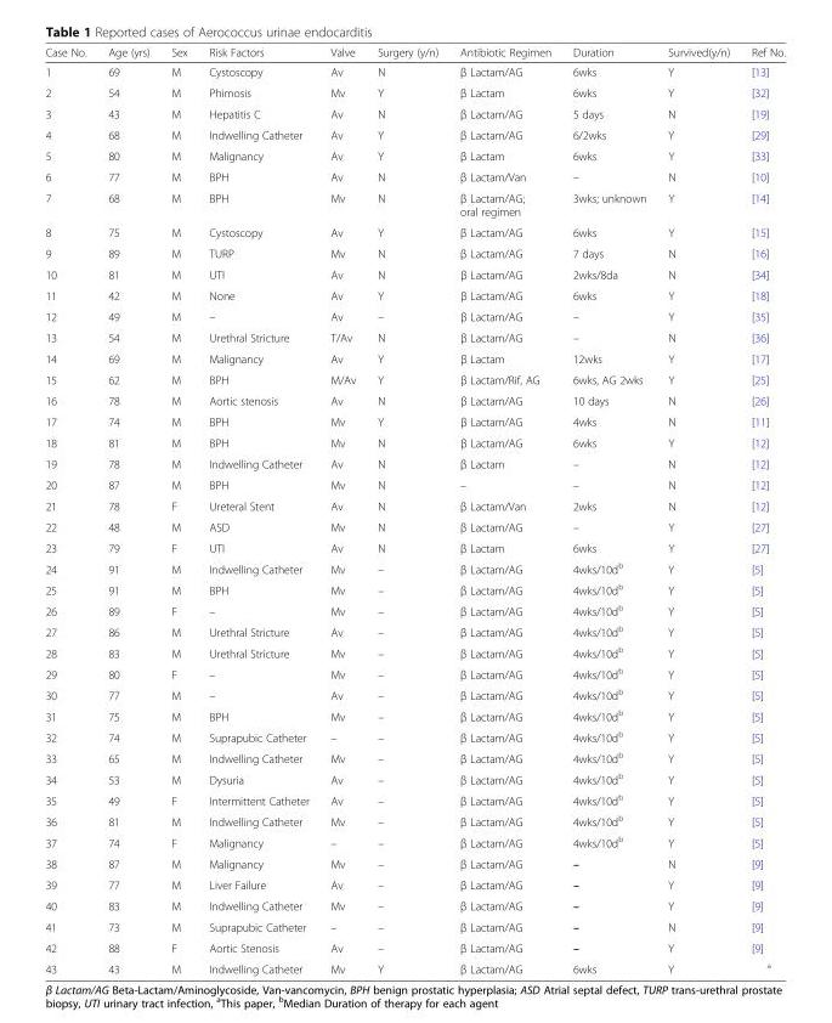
<table><thead><tr><td>Case No.</td><td>Age (yrs)</td><td>Sex</td><td>Risk Factors</td><td>Valve</td><td>Surgery (y/n)</td><td>Antibiotic Regimen</td><td>Duration</td><td>Survived(y/n)</td><td>Ref No.</td></tr></thead><tbody><tr><td>1</td><td>69</td><td>M</td><td>Cystoscopy</td><td>Av</td><td>N</td><td>β Lactam/AG</td><td>6wks</td><td>Y</td><td>[13]</td></tr><tr><td>2</td><td>54</td><td>M</td><td>Phimosis</td><td>Mv</td><td>Y</td><td>β Lactam</td><td>6wks</td><td>Y</td><td>[32]</td></tr><tr><td>3</td><td>43</td><td>M</td><td>Hepatitis C</td><td>Av</td><td>N</td><td>β Lactam/AG</td><td>5 days</td><td>N</td><td>[19]</td></tr><tr><td>4</td><td>68</td><td>M</td><td>Indwelling Catheter</td><td>Av</td><td>Y</td><td>β Lactam/AG</td><td>6/2wks</td><td>Y</td><td>[29]</td></tr><tr><td>5</td><td>80</td><td>M</td><td>Malignancy</td><td>Av</td><td>Y</td><td>β Lactam</td><td>6wks</td><td>Y</td><td>[33]</td></tr><tr><td>6</td><td>77</td><td>M</td><td>BPH</td><td>Av</td><td>N</td><td>β Lactam/Van</td><td>–</td><td>N</td><td>[10]</td></tr><tr><td>7</td><td>68</td><td>M</td><td>BPH</td><td>Mv</td><td>N</td><td>β Lactam/AG; oral regimen</td><td>3wks; unknown</td><td>Y</td><td>[14]</td></tr><tr><td>8</td><td>75</td><td>M</td><td>Cystoscopy</td><td>Av</td><td>Y</td><td>β Lactam/AG</td><td>6wks</td><td>Y</td><td>[15]</td></tr><tr><td>9</td><td>89</td><td>M</td><td>TURP</td><td>Mv</td><td>N</td><td>β Lactam/AG</td><td>7 days</td><td>N</td><td>[16]</td></tr><tr><td>10</td><td>81</td><td>M</td><td>UTI</td><td>Av</td><td>N</td><td>β Lactam/AG</td><td>2wks/8da</td><td>N</td><td>[34]</td></tr><tr><td>11</td><td>42</td><td>M</td><td>None</td><td>Av</td><td>Y</td><td>β Lactam/AG</td><td>6wks</td><td>Y</td><td>[18]</td></tr><tr><td>12</td><td>49</td><td>M</td><td>–</td><td>Av</td><td>–</td><td>β Lactam/AG</td><td>–</td><td>Y</td><td>[35]</td></tr><tr><td>13</td><td>54</td><td>M</td><td>Urethral Stricture</td><td>T/Av</td><td>N</td><td>β Lactam/AG</td><td>–</td><td>N</td><td>[36]</td></tr><tr><td>14</td><td>69</td><td>M</td><td>Malignancy</td><td>Av</td><td>Y</td><td>β Lactam</td><td>12wks</td><td>Y</td><td>[17]</td></tr><tr><td>15</td><td>62</td><td>M</td><td>BPH</td><td>M/Av</td><td>Y</td><td>β Lactam/Rif, AG</td><td>6wks, AG 2wks</td><td>Y</td><td>[25]</td></tr><tr><td>16</td><td>78</td><td>M</td><td>Aortic stenosis</td><td>Av</td><td>N</td><td>β Lactam/AG</td><td>10 days</td><td>N</td><td>[26]</td></tr><tr><td>17</td><td>74</td><td>M</td><td>BPH</td><td>Mv</td><td>Y</td><td>β Lactam/AG</td><td>4wks</td><td>N</td><td>[11]</td></tr><tr><td>18</td><td>81</td><td>M</td><td>BPH</td><td>Mv</td><td>N</td><td>β Lactam/AG</td><td>6wks</td><td>Y</td><td>[12]</td></tr><tr><td>19</td><td>78</td><td>M</td><td>Indwelling Catheter</td><td>Av</td><td>N</td><td>β Lactam</td><td>–</td><td>N</td><td>[12]</td></tr><tr><td>20</td><td>87</td><td>M</td><td>BPH</td><td>Mv</td><td>N</td><td>–</td><td>–</td><td>N</td><td>[12]</td></tr><tr><td>21</td><td>78</td><td>F</td><td>Ureteral Stent</td><td>Av</td><td>N</td><td>β Lactam/Van</td><td>2wks</td><td>N</td><td>[12]</td></tr><tr><td>22</td><td>48</td><td>M</td><td>ASD</td><td>Mv</td><td>N</td><td>β Lactam/AG</td><td>–</td><td>Y</td><td>[27]</td></tr><tr><td>23</td><td>79</td><td>F</td><td>UTI</td><td>Av</td><td>N</td><td>β Lactam</td><td>6wks</td><td>Y</td><td>[27]</td></tr><tr><td>24</td><td>91</td><td>M</td><td>Indwelling Catheter</td><td>Mv</td><td>–</td><td>β Lactam/AG</td><td>4wks/10d<sup>b</sup></td><td>Y</td><td>[5]</td></tr><tr><td>25</td><td>91</td><td>M</td><td>BPH</td><td>Mv</td><td>–</td><td>β Lactam/AG</td><td>4wks/10d<sup>b</sup></td><td>Y</td><td>[5]</td></tr><tr><td>26</td><td>89</td><td>F</td><td>–</td><td>Mv</td><td>–</td><td>β Lactam/AG</td><td>4wks/10d<sup>b</sup></td><td>Y</td><td>[5]</td></tr><tr><td>27</td><td>86</td><td>M</td><td>Urethral Stricture</td><td>Av</td><td>–</td><td>β Lactam/AG</td><td>4wks/10d<sup>b</sup></td><td>Y</td><td>[5]</td></tr><tr><td>28</td><td>83</td><td>M</td><td>Urethral Stricture</td><td>Mv</td><td>–</td><td>β Lactam/AG</td><td>4wks/10d<sup>b</sup></td><td>Y</td><td>[5]</td></tr><tr><td>29</td><td>80</td><td>F</td><td>–</td><td>Mv</td><td>–</td><td>β Lactam/AG</td><td>4wks/10d<sup>b</sup></td><td>Y</td><td>[5]</td></tr><tr><td>30</td><td>77</td><td>M</td><td>–</td><td>Av</td><td>–</td><td>β Lactam/AG</td><td>4wks/10d<sup>b</sup></td><td>Y</td><td>[5]</td></tr><tr><td>31</td><td>75</td><td>M</td><td>BPH</td><td>Mv</td><td>–</td><td>β Lactam/AG</td><td>4wks/10d<sup>b</sup></td><td>Y</td><td>[5]</td></tr><tr><td>32</td><td>74</td><td>M</td><td>Suprapubic Catheter</td><td>–</td><td>–</td><td>β Lactam/AG</td><td>4wks/10d<sup>b</sup></td><td>Y</td><td>[5]</td></tr><tr><td>33</td><td>65</td><td>M</td><td>Indwelling Catheter</td><td>Mv</td><td>–</td><td>β Lactam/AG</td><td>4wks/10d<sup>b</sup></td><td>Y</td><td>[5]</td></tr><tr><td>34</td><td>53</td><td>M</td><td>Dysuria</td><td>Av</td><td>–</td><td>β Lactam/AG</td><td>4wks/10d<sup>b</sup></td><td>Y</td><td>[5]</td></tr><tr><td>35</td><td>49</td><td>F</td><td>Intermittent Catheter</td><td>Av</td><td>–</td><td>β Lactam/AG</td><td>4wks/10d<sup>b</sup></td><td>Y</td><td>[5]</td></tr><tr><td>36</td><td>81</td><td>M</td><td>Indwelling Catheter</td><td>Mv</td><td>–</td><td>β Lactam/AG</td><td>4wks/10d<sup>b</sup></td><td>Y</td><td>[5]</td></tr><tr><td>37</td><td>74</td><td>F</td><td>Malignancy</td><td>–</td><td>–</td><td>β Lactam/AG</td><td>4wks/10d<sup>b</sup></td><td>Y</td><td>[5]</td></tr><tr><td>38</td><td>87</td><td>M</td><td>Malignancy</td><td>Mv</td><td>–</td><td>β Lactam/AG</td><td>–</td><td>N</td><td>[9]</td></tr><tr><td>39</td><td>77</td><td>M</td><td>Liver Failure</td><td>Av</td><td>–</td><td>β Lactam/AG</td><td>–</td><td>Y</td><td>[9]</td></tr><tr><td>40</td><td>83</td><td>M</td><td>Indwelling Catheter</td><td>Mv</td><td>–</td><td>β Lactam/AG</td><td>–</td><td>Y</td><td>[9]</td></tr><tr><td>41</td><td>73</td><td>M</td><td>Suprapubic Catheter</td><td>–</td><td>–</td><td>β Lactam/AG</td><td>–</td><td>N</td><td>[9]</td></tr><tr><td>42</td><td>88</td><td>F</td><td>Aortic Stenosis</td><td>Av</td><td>–</td><td>β Lactam/AG</td><td>–</td><td>Y</td><td>[9]</td></tr><tr><td>43</td><td>43</td><td>M</td><td>Indwelling Catheter</td><td>Mv</td><td>Y</td><td>β Lactam/AG</td><td>6wks</td><td>Y</td><td><sup>a</sup></td></tr></tbody></table>